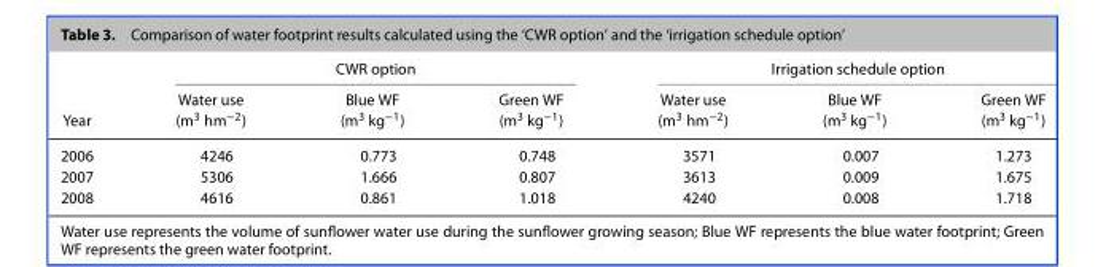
<table><thead><tr><td rowspan="2">Year</td><td colspan="3">CWR option</td><td colspan="3">Irrigation schedule option</td></tr><tr><td>Water use (m<sup>3</sup> hm<sup>−2</sup>)</td><td>Blue WF (m<sup>3</sup> kg<sup>−1</sup>)</td><td>Green WF (m<sup>3</sup> kg<sup>−1</sup>)</td><td>Water use (m<sup>3</sup> hm<sup>−2</sup>)</td><td>Blue WF (m<sup>3</sup> kg<sup>−1</sup>)</td><td>Green WF (m<sup>3</sup> kg<sup>−1</sup>)</td></tr></thead><tbody><tr><td>2006</td><td>4246</td><td>0.773</td><td>0.748</td><td>3571</td><td>0.007</td><td>1.273</td></tr><tr><td>2007</td><td>5306</td><td>1.666</td><td>0.807</td><td>3613</td><td>0.009</td><td>1.675</td></tr><tr><td>2008</td><td>4616</td><td>0.861</td><td>1.018</td><td>4240</td><td>0.008</td><td>1.718</td></tr></tbody></table>